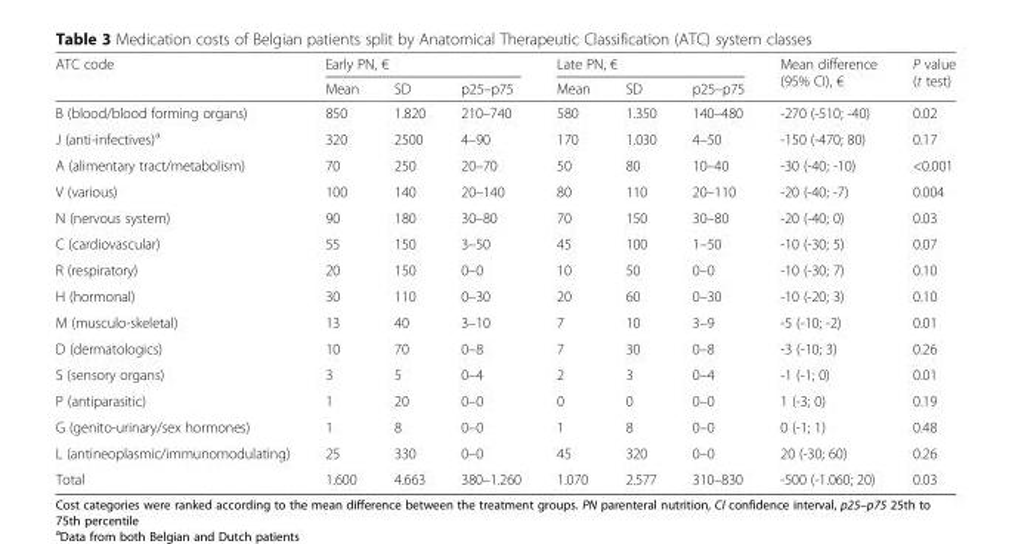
<table><thead><tr><td rowspan="2">ATC code</td><td colspan="3">Early PN, €</td><td colspan="3">Late PN, €</td><td rowspan="2">Mean difference (95% CI), €</td><td rowspan="2">P value (t test)</td></tr><tr><td>Mean</td><td>SD</td><td>p25–p75</td><td>Mean</td><td>SD</td><td>p25–p75</td></tr></thead><tbody><tr><td>B (blood/blood forming organs)</td><td>850</td><td>1.820</td><td>210–740</td><td>580</td><td>1.350</td><td>140–480</td><td>-270 (-510; -40)</td><td>0.02</td></tr><tr><td>J (anti-infectives)<sup>a</sup></td><td>320</td><td>2500</td><td>4–90</td><td>170</td><td>1.030</td><td>4–50</td><td>-150 (-470; 80)</td><td>0.17</td></tr><tr><td>A (alimentary tract/metabolism)</td><td>70</td><td>250</td><td>20–70</td><td>50</td><td>80</td><td>10–40</td><td>-30 (-40; -10)</td><td>&lt;0.001</td></tr><tr><td>V (various)</td><td>100</td><td>140</td><td>20–140</td><td>80</td><td>110</td><td>20–110</td><td>-20 (-40; -7)</td><td>0.004</td></tr><tr><td>N (nervous system)</td><td>90</td><td>180</td><td>30–80</td><td>70</td><td>150</td><td>30–80</td><td>-20 (-40; 0)</td><td>0.03</td></tr><tr><td>C (cardiovascular)</td><td>55</td><td>150</td><td>3–50</td><td>45</td><td>100</td><td>1–50</td><td>-10 (-30; 5)</td><td>0.07</td></tr><tr><td>R (respiratory)</td><td>20</td><td>150</td><td>0–0</td><td>10</td><td>50</td><td>0–0</td><td>-10 (-30; 7)</td><td>0.10</td></tr><tr><td>H (hormonal)</td><td>30</td><td>110</td><td>0–30</td><td>20</td><td>60</td><td>0–30</td><td>-10 (-20; 3)</td><td>0.10</td></tr><tr><td>M (musculo-skeletal)</td><td>13</td><td>40</td><td>3–10</td><td>7</td><td>10</td><td>3–9</td><td>-5 (-10; -2)</td><td>0.01</td></tr><tr><td>D (dermatologics)</td><td>10</td><td>70</td><td>0–8</td><td>7</td><td>30</td><td>0–8</td><td>-3 (-10; 3)</td><td>0.26</td></tr><tr><td>S (sensory organs)</td><td>3</td><td>5</td><td>0–4</td><td>2</td><td>3</td><td>0–4</td><td>-1 (-1; 0)</td><td>0.01</td></tr><tr><td>P (antiparasitic)</td><td>1</td><td>20</td><td>0–0</td><td>0</td><td>0</td><td>0–0</td><td>1 (-3; 0)</td><td>0.19</td></tr><tr><td>G (genito-urinary/sex hormones)</td><td>1</td><td>8</td><td>0–0</td><td>1</td><td>8</td><td>0–0</td><td>0 (-1; 1)</td><td>0.48</td></tr><tr><td>L (antineoplasmic/immunomodulating)</td><td>25</td><td>330</td><td>0–0</td><td>45</td><td>320</td><td>0–0</td><td>20 (-30; 60)</td><td>0.26</td></tr><tr><td>Total</td><td>1.600</td><td>4.663</td><td>380–1.260</td><td>1.070</td><td>2.577</td><td>310–830</td><td>-500 (-1.060; 20)</td><td>0.03</td></tr></tbody></table>